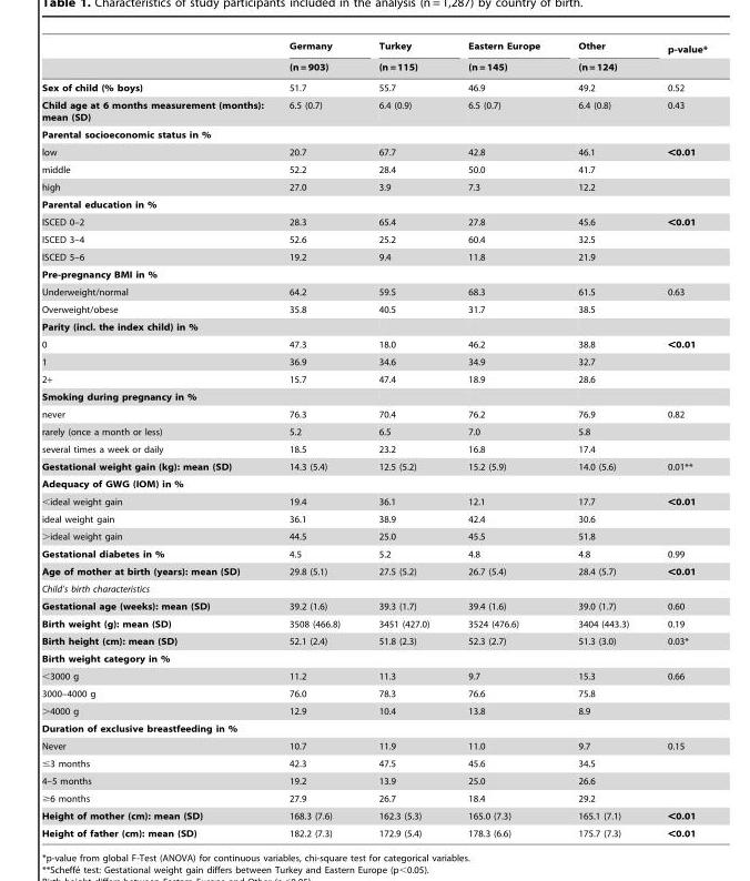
<table><thead><tr><td rowspan="2"></td><td rowspan="2">Germany (n = 903)</td><td rowspan="2">Turkey (n = 115)</td><td rowspan="2">Eastern Europe (n = 145)</td><td rowspan="2">Other (n = 124)</td><td rowspan="2">p-value*</td></tr><tr></tr></thead><tbody><tr><td>Sex of child (% boys)</td><td>51.7</td><td>55.7</td><td>46.9</td><td>49.2</td><td>0.52</td></tr><tr><td>Child age at 6 months measurement (months): mean (SD)</td><td>6.5 (0.7)</td><td>6.4 (0.9)</td><td>6.5 (0.7)</td><td>6.4 (0.8)</td><td>0.43</td></tr><tr><td colspan="6">Parental socioeconomic status in %</td></tr><tr><td>low</td><td>20.7</td><td>67.7</td><td>42.8</td><td>46.1</td><td>&lt;0.01</td></tr><tr><td>middle</td><td>52.2</td><td>28.4</td><td>50.0</td><td>41.7</td><td></td></tr><tr><td>high</td><td>27.0</td><td>3.9</td><td>7.3</td><td>12.2</td><td></td></tr><tr><td colspan="6">Parental education in %</td></tr><tr><td>ISCED 0–2</td><td>28.3</td><td>65.4</td><td>27.8</td><td>45.6</td><td>&lt;0.01</td></tr><tr><td>ISCED 3–4</td><td>52.6</td><td>25.2</td><td>60.4</td><td>32.5</td><td></td></tr><tr><td>ISCED 5–6</td><td>19.2</td><td>9.4</td><td>11.8</td><td>21.9</td><td></td></tr><tr><td colspan="6">Pre-pregnancy BMI in %</td></tr><tr><td>Underweight/normal</td><td>64.2</td><td>59.5</td><td>68.3</td><td>61.5</td><td>0.63</td></tr><tr><td>Overweight/obese</td><td>35.8</td><td>40.5</td><td>31.7</td><td>38.5</td><td></td></tr><tr><td colspan="6">Parity (incl. the index child) in %</td></tr><tr><td>0</td><td>47.3</td><td>18.0</td><td>46.2</td><td>38.8</td><td>&lt;0.01</td></tr><tr><td>1</td><td>36.9</td><td>34.6</td><td>34.9</td><td>32.7</td><td></td></tr><tr><td>2+</td><td>15.7</td><td>47.4</td><td>18.9</td><td>28.6</td><td></td></tr><tr><td colspan="6">Smoking during pregnancy in %</td></tr><tr><td>never</td><td>76.3</td><td>70.4</td><td>76.2</td><td>76.9</td><td>0.82</td></tr><tr><td>rarely (once a month or less)</td><td>5.2</td><td>6.5</td><td>7.0</td><td>5.8</td><td></td></tr><tr><td>several times a week or daily</td><td>18.5</td><td>23.2</td><td>16.8</td><td>17.4</td><td></td></tr><tr><td>Gestational weight gain (kg): mean (SD)</td><td>14.3 (5.4)</td><td>12.5 (5.2)</td><td>15.2 (5.9)</td><td>14.0 (5.6)</td><td>0.01**</td></tr><tr><td colspan="6">Adequacy of GWG (IOM) in %</td></tr><tr><td>&lt;ideal weight gain</td><td>19.4</td><td>36.1</td><td>12.1</td><td>17.7</td><td>&lt;0.01</td></tr><tr><td>ideal weight gain</td><td>36.1</td><td>38.9</td><td>42.4</td><td>30.6</td><td></td></tr><tr><td>&gt;ideal weight gain</td><td>44.5</td><td>25.0</td><td>45.5</td><td>51.8</td><td></td></tr><tr><td>Gestational diabetes in %</td><td>4.5</td><td>5.2</td><td>4.8</td><td>4.8</td><td>0.99</td></tr><tr><td>Age of mother at birth (years): mean (SD)</td><td>29.8 (5.1)</td><td>27.5 (5.2)</td><td>26.7 (5.4)</td><td>28.4 (5.7)</td><td>&lt;0.01</td></tr><tr><td colspan="6">Child’s birth characteristics</td></tr><tr><td>Gestational age (weeks): mean (SD)</td><td>39.2 (1.6)</td><td>39.3 (1.7)</td><td>39.4 (1.6)</td><td>39.0 (1.7)</td><td>0.60</td></tr><tr><td>Birth weight (g): mean (SD)</td><td>3508 (466.8)</td><td>3451 (427.0)</td><td>3524 (476.6)</td><td>3404 (443.3)</td><td>0.19</td></tr><tr><td>Birth height (cm): mean (SD)</td><td>52.1 (2.4)</td><td>51.8 (2.3)</td><td>52.3 (2.7)</td><td>51.3 (3.0)</td><td>0.03*</td></tr><tr><td colspan="6">Birth weight category in %</td></tr><tr><td>&lt;3000 g</td><td>11.2</td><td>11.3</td><td>9.7</td><td>15.3</td><td>0.66</td></tr><tr><td>3000–4000 g</td><td>76.0</td><td>78.3</td><td>76.6</td><td>75.8</td><td></td></tr><tr><td>&gt;4000 g</td><td>12.9</td><td>10.4</td><td>13.8</td><td>8.9</td><td></td></tr><tr><td colspan="6">Duration of exclusive breastfeeding in %</td></tr><tr><td>Never</td><td>10.7</td><td>11.9</td><td>11.0</td><td>9.7</td><td>0.15</td></tr><tr><td>≤3 months</td><td>42.3</td><td>47.5</td><td>45.6</td><td>34.5</td><td></td></tr><tr><td>4–5 months</td><td>19.2</td><td>13.9</td><td>25.0</td><td>26.6</td><td></td></tr><tr><td>≥6 months</td><td>27.9</td><td>26.7</td><td>18.4</td><td>29.2</td><td></td></tr><tr><td>Height of mother (cm): mean (SD)</td><td>168.3 (7.6)</td><td>162.3 (5.3)</td><td>165.0 (7.3)</td><td>165.1 (7.1)</td><td>&lt;0.01</td></tr><tr><td>Height of father (cm): mean (SD)</td><td>182.2 (7.3)</td><td>172.9 (5.4)</td><td>178.3 (6.6)</td><td>175.7 (7.3)</td><td>&lt;0.01</td></tr></tbody></table>